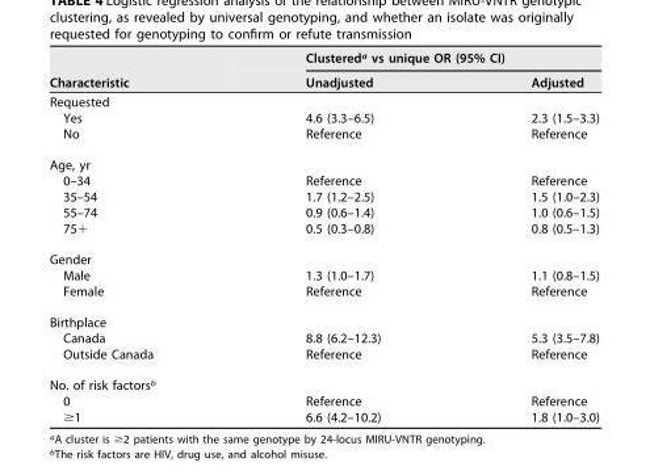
<table><thead><tr><td rowspan="2">Characteristic</td><td colspan="2">Clustered<sup>a</sup> vs unique OR (95% CI)</td></tr><tr><td>Unadjusted</td><td>Adjusted</td></tr></thead><tbody><tr><td colspan="3">Requested</td></tr><tr><td>Yes</td><td>4.6 (3.3–6.5)</td><td>2.3 (1.5–3.3)</td></tr><tr><td>No</td><td>Reference</td><td>Reference</td></tr><tr><td colspan="3">Age, yr</td></tr><tr><td>0–34</td><td>Reference</td><td>Reference</td></tr><tr><td>35–54</td><td>1.7 (1.2–2.5)</td><td>1.5 (1.0–2.3)</td></tr><tr><td>55–74</td><td>0.9 (0.6–1.4)</td><td>1.0 (0.6–1.5)</td></tr><tr><td>75+</td><td>0.5 (0.3–0.8)</td><td>0.8 (0.5–1.3)</td></tr><tr><td colspan="3">Gender</td></tr><tr><td>Male</td><td>1.3 (1.0–1.7)</td><td>1.1 (0.8–1.5)</td></tr><tr><td>Female</td><td>Reference</td><td>Reference</td></tr><tr><td colspan="3">Birthplace</td></tr><tr><td>Canada</td><td>8.8 (6.2–12.3)</td><td>5.3 (3.5–7.8)</td></tr><tr><td>Outside Canada</td><td>Reference</td><td>Reference</td></tr><tr><td colspan="3">No. of risk factors<sup>b</sup></td></tr><tr><td>0</td><td>Reference</td><td>Reference</td></tr><tr><td>≥1</td><td>6.6 (4.2–10.2)</td><td>1.8 (1.0–3.0)</td></tr></tbody></table>